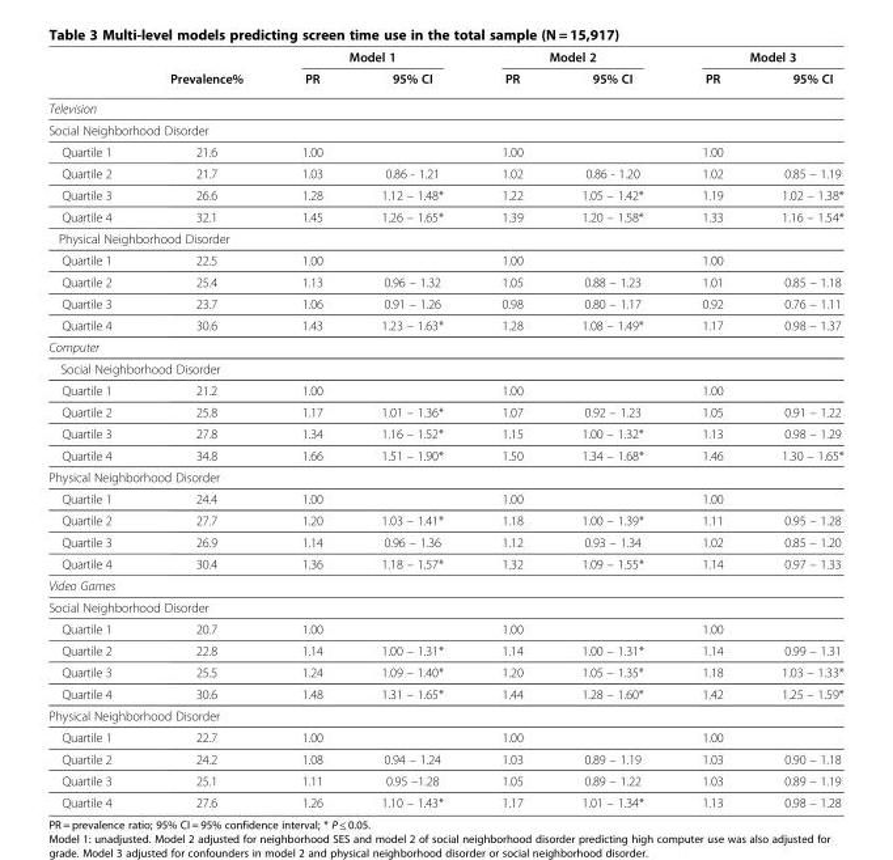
<table><thead><tr><td rowspan="2"></td><td rowspan="2">Prevalence%</td><td colspan="2">Model 1</td><td colspan="2">Model 2</td><td colspan="2">Model 3</td></tr><tr><td>PR</td><td>95% CI</td><td>PR</td><td>95% CI</td><td>PR</td><td>95% CI</td></tr></thead><tbody><tr><td colspan="8">Television</td></tr><tr><td colspan="8">Social Neighborhood Disorder</td></tr><tr><td>Quartile 1</td><td>21.6</td><td>1.00</td><td></td><td>1.00</td><td></td><td>1.00</td><td></td></tr><tr><td>Quartile 2</td><td>21.7</td><td>1.03</td><td>0.86 - 1.21</td><td>1.02</td><td>0.86 - 1.20</td><td>1.02</td><td>0.85 – 1.19</td></tr><tr><td>Quartile 3</td><td>26.6</td><td>1.28</td><td>1.12 – 1.48*</td><td>1.22</td><td>1.05 – 1.42*</td><td>1.19</td><td>1.02 – 1.38*</td></tr><tr><td>Quartile 4</td><td>32.1</td><td>1.45</td><td>1.26 – 1.65*</td><td>1.39</td><td>1.20 – 1.58*</td><td>1.33</td><td>1.16 – 1.54*</td></tr><tr><td colspan="8">Physical Neighborhood Disorder</td></tr><tr><td>Quartile 1</td><td>22.5</td><td>1.00</td><td></td><td>1.00</td><td></td><td>1.00</td><td></td></tr><tr><td>Quartile 2</td><td>25.4</td><td>1.13</td><td>0.96 – 1.32</td><td>1.05</td><td>0.88 – 1.23</td><td>1.01</td><td>0.85 – 1.18</td></tr><tr><td>Quartile 3</td><td>23.7</td><td>1.06</td><td>0.91 – 1.26</td><td>0.98</td><td>0.80 – 1.17</td><td>0.92</td><td>0.76 – 1.11</td></tr><tr><td>Quartile 4</td><td>30.6</td><td>1.43</td><td>1.23 – 1.63*</td><td>1.28</td><td>1.08 – 1.49*</td><td>1.17</td><td>0.98 – 1.37</td></tr><tr><td colspan="8">Computer</td></tr><tr><td colspan="8">Social Neighborhood Disorder</td></tr><tr><td>Quartile 1</td><td>21.2</td><td>1.00</td><td></td><td>1.00</td><td></td><td>1.00</td><td></td></tr><tr><td>Quartile 2</td><td>25.8</td><td>1.17</td><td>1.01 – 1.36*</td><td>1.07</td><td>0.92 – 1.23</td><td>1.05</td><td>0.91 – 1.22</td></tr><tr><td>Quartile 3</td><td>27.8</td><td>1.34</td><td>1.16 – 1.52*</td><td>1.15</td><td>1.00 – 1.32*</td><td>1.13</td><td>0.98 – 1.29</td></tr><tr><td>Quartile 4</td><td>34.8</td><td>1.66</td><td>1.51 – 1.90*</td><td>1.50</td><td>1.34 – 1.68*</td><td>1.46</td><td>1.30 – 1.65*</td></tr><tr><td colspan="8">Physical Neighborhood Disorder</td></tr><tr><td>Quartile 1</td><td>24.4</td><td>1.00</td><td></td><td>1.00</td><td></td><td>1.00</td><td></td></tr><tr><td>Quartile 2</td><td>27.7</td><td>1.20</td><td>1.03 – 1.41*</td><td>1.18</td><td>1.00 – 1.39*</td><td>1.11</td><td>0.95 – 1.28</td></tr><tr><td>Quartile 3</td><td>26.9</td><td>1.14</td><td>0.96 – 1.36</td><td>1.12</td><td>0.93 – 1.34</td><td>1.02</td><td>0.85 – 1.20</td></tr><tr><td>Quartile 4</td><td>30.4</td><td>1.36</td><td>1.18 – 1.57*</td><td>1.32</td><td>1.09 – 1.55*</td><td>1.14</td><td>0.97 – 1.33</td></tr><tr><td colspan="8">Video Games</td></tr><tr><td colspan="8">Social Neighborhood Disorder</td></tr><tr><td>Quartile 1</td><td>20.7</td><td>1.00</td><td></td><td>1.00</td><td></td><td>1.00</td><td></td></tr><tr><td>Quartile 2</td><td>22.8</td><td>1.14</td><td>1.00 – 1.31*</td><td>1.14</td><td>1.00 – 1.31*</td><td>1.14</td><td>0.99 – 1.31</td></tr><tr><td>Quartile 3</td><td>25.5</td><td>1.24</td><td>1.09 – 1.40*</td><td>1.20</td><td>1.05 – 1.35*</td><td>1.18</td><td>1.03 – 1.33*</td></tr><tr><td>Quartile 4</td><td>30.6</td><td>1.48</td><td>1.31 – 1.65*</td><td>1.44</td><td>1.28 – 1.60*</td><td>1.42</td><td>1.25 – 1.59*</td></tr><tr><td colspan="8">Physical Neighborhood Disorder</td></tr><tr><td>Quartile 1</td><td>22.7</td><td>1.00</td><td></td><td>1.00</td><td></td><td>1.00</td><td></td></tr><tr><td>Quartile 2</td><td>24.2</td><td>1.08</td><td>0.94 – 1.24</td><td>1.03</td><td>0.89 – 1.19</td><td>1.03</td><td>0.90 – 1.18</td></tr><tr><td>Quartile 3</td><td>25.1</td><td>1.11</td><td>0.95 –1.28</td><td>1.05</td><td>0.89 – 1.22</td><td>1.03</td><td>0.89 – 1.19</td></tr><tr><td>Quartile 4</td><td>27.6</td><td>1.26</td><td>1.10 – 1.43*</td><td>1.17</td><td>1.01 – 1.34*</td><td>1.13</td><td>0.98 – 1.28</td></tr></tbody></table>